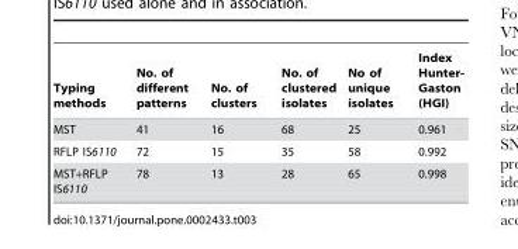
<table><thead><tr><td>Typing methods</td><td>No. of different patterns</td><td>No. of clusters</td><td>No. of clustered isolates</td><td>No of unique isolates</td><td>Index Hunter- Gaston (HGI)</td></tr></thead><tbody><tr><td>MST</td><td>41</td><td>16</td><td>68</td><td>25</td><td>0.961</td></tr><tr><td>RFLP IS6110</td><td>72</td><td>15</td><td>35</td><td>58</td><td>0.992</td></tr><tr><td>MST+RFLP IS6110</td><td>78</td><td>13</td><td>28</td><td>65</td><td>0.998</td></tr></tbody></table>